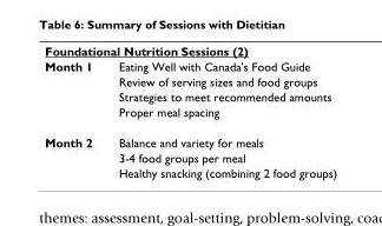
<table><tbody><tr><td colspan="2">Foundational Nutrition Sessions (2)</td></tr><tr><td rowspan="4">Month 1</td><td>Eating Well with Canada&#x27;s Food Guide</td></tr><tr><td>Review of serving sizes and food groups</td></tr><tr><td>Strategies to meet recommended amounts</td></tr><tr><td>Proper meal spacing</td></tr><tr><td rowspan="3">Month 2</td><td>Balance and variety for meals</td></tr><tr><td>3-4 food groups per meal</td></tr><tr><td>Healthy snacking (combining 2 food groups)</td></tr></tbody></table>